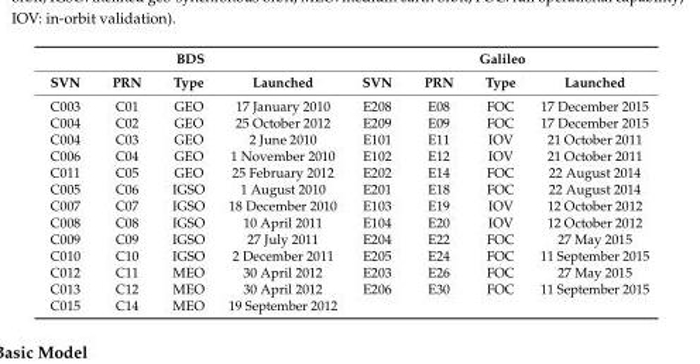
<table><thead><tr><td colspan="4">BDS</td><td colspan="4">Galileo</td></tr><tr><td>SVN</td><td>PRN</td><td>Type</td><td>Launched</td><td>SVN</td><td>PRN</td><td>Type</td><td>Launched</td></tr></thead><tbody><tr><td>C003</td><td>C01</td><td>GEO</td><td>17 January 2010</td><td>E208</td><td>E08</td><td>FOC</td><td>17 December 2015</td></tr><tr><td>C004</td><td>C02</td><td>GEO</td><td>25 October 2012</td><td>E209</td><td>E09</td><td>FOC</td><td>17 December 2015</td></tr><tr><td>C004</td><td>C03</td><td>GEO</td><td>2 June 2010</td><td>E101</td><td>E11</td><td>IOV</td><td>21 October 2011</td></tr><tr><td>C006</td><td>C04</td><td>GEO</td><td>1 November 2010</td><td>E102</td><td>E12</td><td>IOV</td><td>21 October 2011</td></tr><tr><td>C011</td><td>C05</td><td>GEO</td><td>25 February 2012</td><td>E202</td><td>E14</td><td>FOC</td><td>22 August 2014</td></tr><tr><td>C005</td><td>C06</td><td>IGSO</td><td>1 August 2010</td><td>E201</td><td>E18</td><td>FOC</td><td>22 August 2014</td></tr><tr><td>C007</td><td>C07</td><td>IGSO</td><td>18 December 2010</td><td>E103</td><td>E19</td><td>IOV</td><td>12 October 2012</td></tr><tr><td>C008</td><td>C08</td><td>IGSO</td><td>10 April 2011</td><td>E104</td><td>E20</td><td>IOV</td><td>12 October 2012</td></tr><tr><td>C009</td><td>C09</td><td>IGSO</td><td>27 July 2011</td><td>E204</td><td>E22</td><td>FOC</td><td>27 May 2015</td></tr><tr><td>C010</td><td>C10</td><td>IGSO</td><td>2 December 2011</td><td>E205</td><td>E24</td><td>FOC</td><td>11 September 2015</td></tr><tr><td>C012</td><td>C11</td><td>MEO</td><td>30 April 2012</td><td>E203</td><td>E26</td><td>FOC</td><td>27 May 2015</td></tr><tr><td>C013</td><td>C12</td><td>MEO</td><td>30 April 2012</td><td>E206</td><td>E30</td><td>FOC</td><td>11 September 2015</td></tr><tr><td>C015</td><td>C14</td><td>MEO</td><td>19 September 2012</td><td></td><td></td><td></td><td></td></tr></tbody></table>